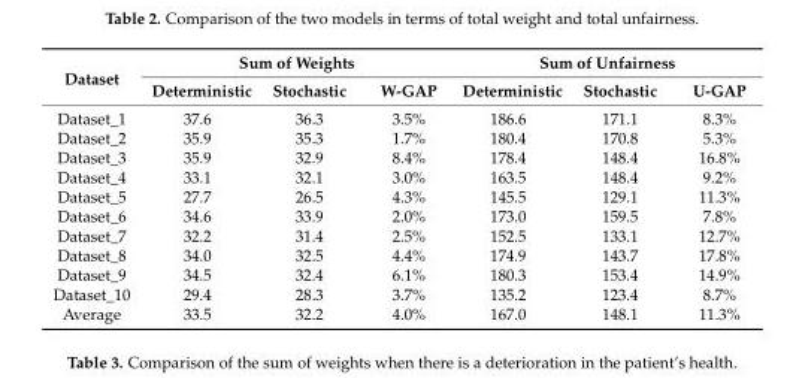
<table><thead><tr><td rowspan="2">Dataset</td><td colspan="3">Sum of Weights</td><td colspan="3">Sum of Unfairness</td></tr><tr><td>Deterministic</td><td>Stochastic</td><td>W-GAP</td><td>Deterministic</td><td>Stochastic</td><td>U-GAP</td></tr></thead><tbody><tr><td>Dataset_1</td><td>37.6</td><td>36.3</td><td>3.5%</td><td>186.6</td><td>171.1</td><td>8.3%</td></tr><tr><td>Dataset_2</td><td>35.9</td><td>35.3</td><td>1.7%</td><td>180.4</td><td>170.8</td><td>5.3%</td></tr><tr><td>Dataset_3</td><td>35.9</td><td>32.9</td><td>8.4%</td><td>178.4</td><td>148.4</td><td>16.8%</td></tr><tr><td>Dataset_4</td><td>33.1</td><td>32.1</td><td>3.0%</td><td>163.5</td><td>148.4</td><td>9.2%</td></tr><tr><td>Dataset_5</td><td>27.7</td><td>26.5</td><td>4.3%</td><td>145.5</td><td>129.1</td><td>11.3%</td></tr><tr><td>Dataset_6</td><td>34.6</td><td>33.9</td><td>2.0%</td><td>173.0</td><td>159.5</td><td>7.8%</td></tr><tr><td>Dataset_7</td><td>32.2</td><td>31.4</td><td>2.5%</td><td>152.5</td><td>133.1</td><td>12.7%</td></tr><tr><td>Dataset_8</td><td>34.0</td><td>32.5</td><td>4.4%</td><td>174.9</td><td>143.7</td><td>17.8%</td></tr><tr><td>Dataset_9</td><td>34.5</td><td>32.4</td><td>6.1%</td><td>180.3</td><td>153.4</td><td>14.9%</td></tr><tr><td>Dataset_10</td><td>29.4</td><td>28.3</td><td>3.7%</td><td>135.2</td><td>123.4</td><td>8.7%</td></tr><tr><td>Average</td><td>33.5</td><td>32.2</td><td>4.0%</td><td>167.0</td><td>148.1</td><td>11.3%</td></tr></tbody></table>